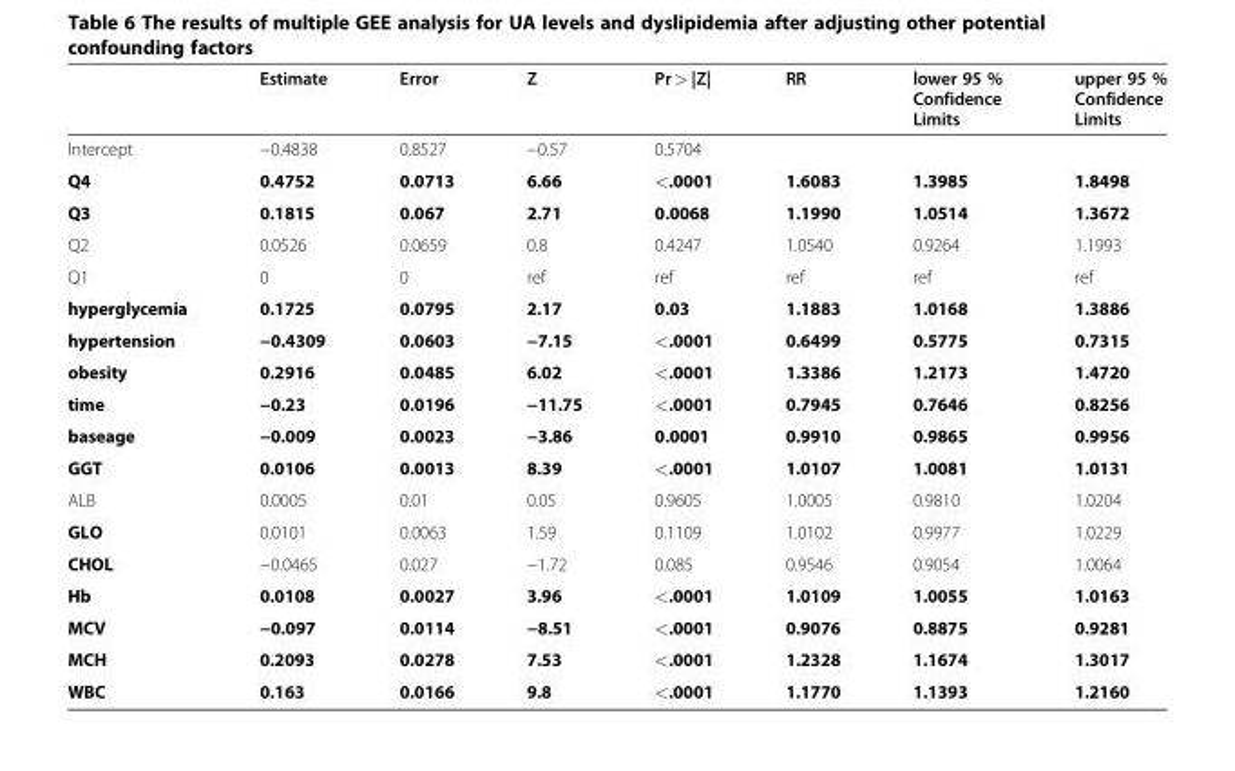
<table><thead><tr><td></td><td>Estimate</td><td>Error</td><td>Z</td><td>Pr &gt; |Z|</td><td>RR</td><td>lower 95 % Confidence Limits</td><td>upper 95 % Confidence Limits</td></tr></thead><tbody><tr><td>Intercept</td><td>−0.4838</td><td>0.8527</td><td>−0.57</td><td>0.5704</td><td></td><td></td><td></td></tr><tr><td>Q4</td><td>0.4752</td><td>0.0713</td><td>6.66</td><td>&lt;.0001</td><td>1.6083</td><td>1.3985</td><td>1.8498</td></tr><tr><td>Q3</td><td>0.1815</td><td>0.067</td><td>2.71</td><td>0.0068</td><td>1.1990</td><td>1.0514</td><td>1.3672</td></tr><tr><td>Q2</td><td>0.0526</td><td>0.0659</td><td>0.8</td><td>0.4247</td><td>1.0540</td><td>0.9264</td><td>1.1993</td></tr><tr><td>Q1</td><td>0</td><td>0</td><td>ref</td><td>ref</td><td>ref</td><td>ref</td><td>ref</td></tr><tr><td>hyperglycemia</td><td>0.1725</td><td>0.0795</td><td>2.17</td><td>0.03</td><td>1.1883</td><td>1.0168</td><td>1.3886</td></tr><tr><td>hypertension</td><td>−0.4309</td><td>0.0603</td><td>−7.15</td><td>&lt;.0001</td><td>0.6499</td><td>0.5775</td><td>0.7315</td></tr><tr><td>obesity</td><td>0.2916</td><td>0.0485</td><td>6.02</td><td>&lt;.0001</td><td>1.3386</td><td>1.2173</td><td>1.4720</td></tr><tr><td>time</td><td>−0.23</td><td>0.0196</td><td>−11.75</td><td>&lt;.0001</td><td>0.7945</td><td>0.7646</td><td>0.8256</td></tr><tr><td>baseage</td><td>−0.009</td><td>0.0023</td><td>−3.86</td><td>0.0001</td><td>0.9910</td><td>0.9865</td><td>0.9956</td></tr><tr><td>GGT</td><td>0.0106</td><td>0.0013</td><td>8.39</td><td>&lt;.0001</td><td>1.0107</td><td>1.0081</td><td>1.0131</td></tr><tr><td>ALB</td><td>0.0005</td><td>0.01</td><td>0.05</td><td>0.9605</td><td>1.0005</td><td>0.9810</td><td>1.0204</td></tr><tr><td>GLO</td><td>0.0101</td><td>0.0063</td><td>1.59</td><td>0.1109</td><td>1.0102</td><td>0.9977</td><td>1.0229</td></tr><tr><td>CHOL</td><td>−0.0465</td><td>0.027</td><td>−1.72</td><td>0.085</td><td>0.9546</td><td>0.9054</td><td>1.0064</td></tr><tr><td>Hb</td><td>0.0108</td><td>0.0027</td><td>3.96</td><td>&lt;.0001</td><td>1.0109</td><td>1.0055</td><td>1.0163</td></tr><tr><td>MCV</td><td>−0.097</td><td>0.0114</td><td>−8.51</td><td>&lt;.0001</td><td>0.9076</td><td>0.8875</td><td>0.9281</td></tr><tr><td>MCH</td><td>0.2093</td><td>0.0278</td><td>7.53</td><td>&lt;.0001</td><td>1.2328</td><td>1.1674</td><td>1.3017</td></tr><tr><td>WBC</td><td>0.163</td><td>0.0166</td><td>9.8</td><td>&lt;.0001</td><td>1.1770</td><td>1.1393</td><td>1.2160</td></tr></tbody></table>